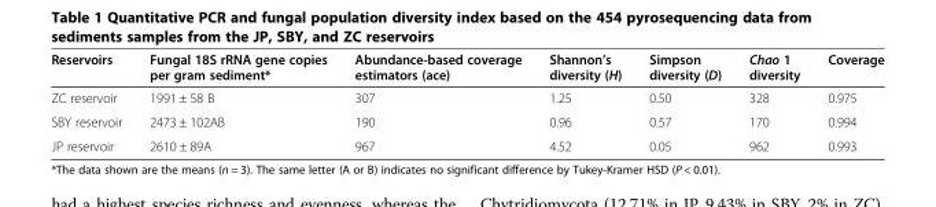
<table><thead><tr><td>Reservoirs</td><td>Fungal 18S rRNA gene copies per gram sediment*</td><td>Abundance-based coverage estimators (ace)</td><td>Shannon’s diversity (H)</td><td>Simpson diversity (D)</td><td>Chao 1 diversity</td><td>Coverage</td></tr></thead><tbody><tr><td>ZC reservoir</td><td>1991 ± 58 B</td><td>307</td><td>1.25</td><td>0.50</td><td>328</td><td>0.975</td></tr><tr><td>SBY reservoir</td><td>2473 ± 102AB</td><td>190</td><td>0.96</td><td>0.57</td><td>170</td><td>0.994</td></tr><tr><td>JP reservoir</td><td>2610 ± 89A</td><td>967</td><td>4.52</td><td>0.05</td><td>962</td><td>0.993</td></tr></tbody></table>